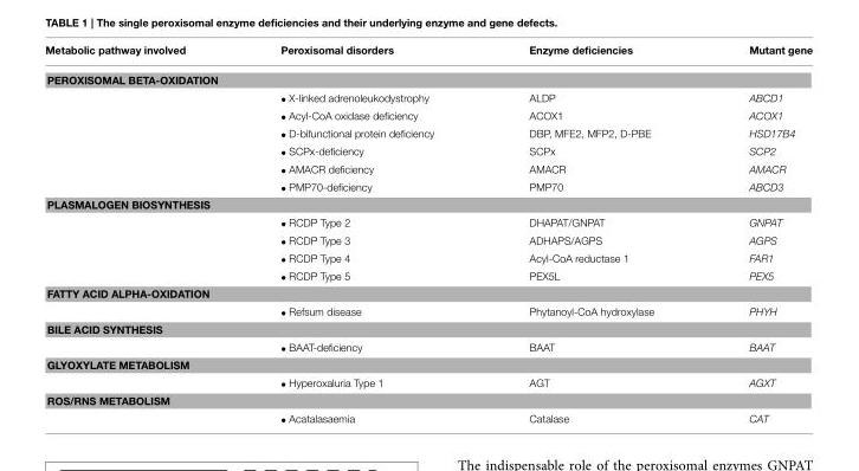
<table><thead><tr><td>Metabolic pathway involved</td><td>Peroxisomal disorders</td><td>Enzyme deficiencies</td><td>Mutant gene</td></tr></thead><tbody><tr><td colspan="4">PEROXISOMAL BETA-OXIDATION</td></tr><tr><td></td><td>• X-linked adrenoleukodystrophy</td><td>ALDP</td><td>ABCD1</td></tr><tr><td></td><td>• Acyl-CoA oxidase deficiency</td><td>ACOX1</td><td>ACOX1</td></tr><tr><td></td><td>• D-bifunctional protein deficiency</td><td>DBP, MFE2, MFP2, D-PBE</td><td>HSD17B4</td></tr><tr><td></td><td>• SCPx-deficiency</td><td>SCPx</td><td>SCP2</td></tr><tr><td></td><td>• AMACR deficiency</td><td>AMACR</td><td>AMACR</td></tr><tr><td></td><td>• PMP70-deficiency</td><td>PMP70</td><td>ABCD3</td></tr><tr><td colspan="4">PLASMALOGEN BIOSYNTHESIS</td></tr><tr><td></td><td>• RCDP Type 2</td><td>DHAPAT/GNPAT</td><td>GNPAT</td></tr><tr><td></td><td>• RCDP Type 3</td><td>ADHAPS/AGPS</td><td>AGPS</td></tr><tr><td></td><td>• RCDP Type 4</td><td>Acyl-CoA reductase 1</td><td>FAR1</td></tr><tr><td></td><td>• RCDP Type 5</td><td>PEX5L</td><td>PEX5</td></tr><tr><td colspan="4">FATTY ACID ALPHA-OXIDATION</td></tr><tr><td></td><td>• Refsum disease</td><td>Phytanoyl-CoA hydroxylase</td><td>PHYH</td></tr><tr><td colspan="4">BILE ACID SYNTHESIS</td></tr><tr><td></td><td>• BAAT-deficiency</td><td>BAAT</td><td>BAAT</td></tr><tr><td colspan="4">GLYOXYLATE METABOLISM</td></tr><tr><td></td><td>• Hyperoxaluria Type 1</td><td>AGT</td><td>AGXT</td></tr><tr><td colspan="4">ROS/RNS METABOLISM</td></tr><tr><td></td><td>• Acatalasaemia</td><td>Catalase</td><td>CAT</td></tr></tbody></table>